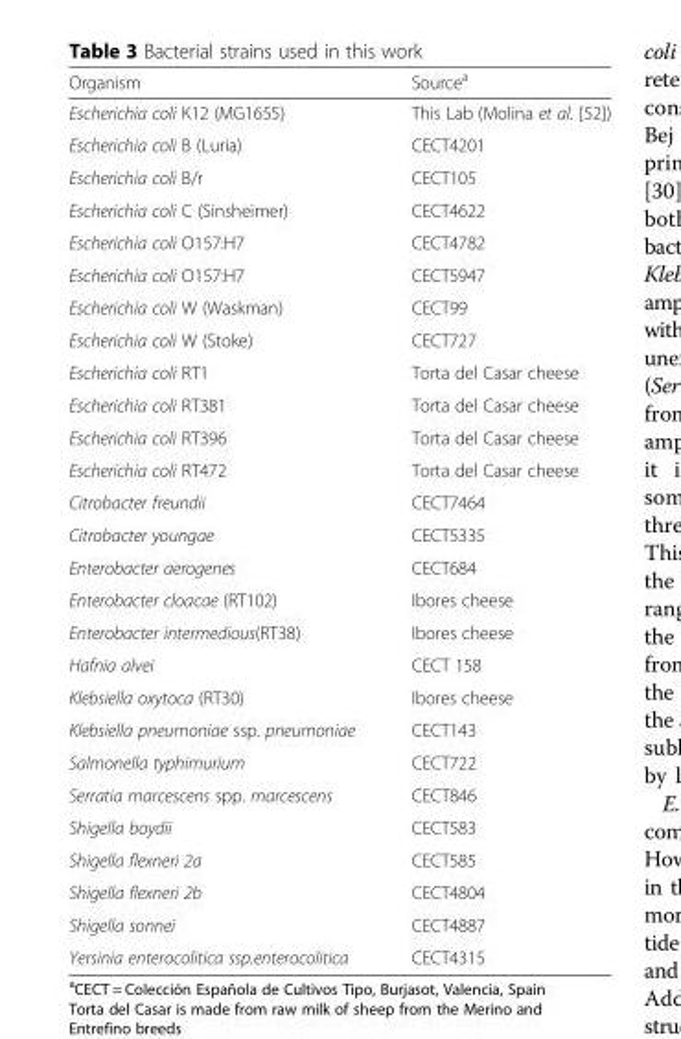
<table><thead><tr><td>Organism</td><td>Source<sup>a</sup></td></tr></thead><tbody><tr><td>Escherichia coli K12 (MG1655)</td><td>This Lab (Molina et al. [52])</td></tr><tr><td>Escherichia coli B (Luria)</td><td>CECT4201</td></tr><tr><td>Escherichia coli B/r</td><td>CECT105</td></tr><tr><td>Escherichia coli C (Sinsheimer)</td><td>CECT4622</td></tr><tr><td>Escherichia coli O157:H7</td><td>CECT4782</td></tr><tr><td>Escherichia coli O157:H7</td><td>CECT5947</td></tr><tr><td>Escherichia coli W (Waskman)</td><td>CECT99</td></tr><tr><td>Escherichia coli W (Stoke)</td><td>CECT727</td></tr><tr><td>Escherichia coli RT1</td><td>Torta del Casar cheese</td></tr><tr><td>Escherichia coli RT381</td><td>Torta del Casar cheese</td></tr><tr><td>Escherichia coli RT396</td><td>Torta del Casar cheese</td></tr><tr><td>Escherichia coli RT472</td><td>Torta del Casar cheese</td></tr><tr><td>Citrobacter freundii</td><td>CECT7464</td></tr><tr><td>Citrobacter youngae</td><td>CECT5335</td></tr><tr><td>Enterobacter aerogenes</td><td>CECT684</td></tr><tr><td>Enterobacter cloacae (RT102)</td><td>Ibores cheese</td></tr><tr><td>Enterobacter intermedious(RT38)</td><td>Ibores cheese</td></tr><tr><td>Hafnia alvei</td><td>CECT 158</td></tr><tr><td>Klebsiella oxytoca (RT30)</td><td>Ibores cheese</td></tr><tr><td>Klebsiella pneumoniae ssp. pneumoniae</td><td>CECT143</td></tr><tr><td>Salmonella typhimurium</td><td>CECT722</td></tr><tr><td>Serratia marcescens spp. marcescens</td><td>CECT846</td></tr><tr><td>Shigella boydii</td><td>CECT583</td></tr><tr><td>Shigella flexneri 2a</td><td>CECT585</td></tr><tr><td>Shigella flexneri 2b</td><td>CECT4804</td></tr><tr><td>Shigella sonnei</td><td>CECT4887</td></tr><tr><td>Yersinia enterocolitica ssp.enterocolitica</td><td>CECT4315</td></tr></tbody></table>